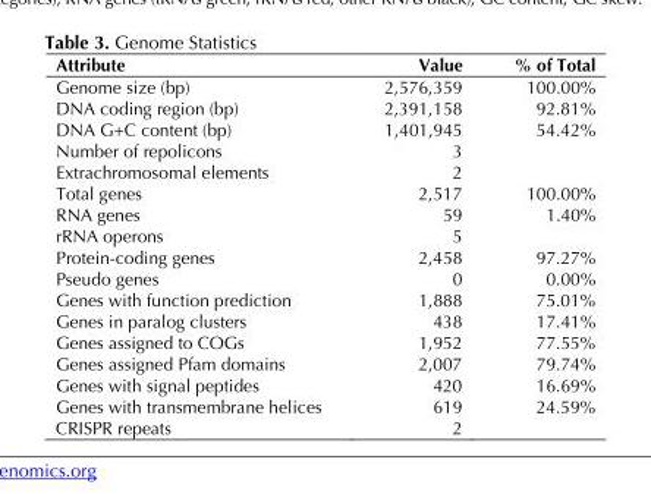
<table><thead><tr><td>Attribute</td><td>Value</td><td>% of Total</td></tr></thead><tbody><tr><td>Genome size (bp)</td><td>2,576,359</td><td>100.00%</td></tr><tr><td>DNA coding region (bp)</td><td>2,391,158</td><td>92.81%</td></tr><tr><td>DNA G+C content (bp)</td><td>1,401,945</td><td>54.42%</td></tr><tr><td>Number of repolicons</td><td>3</td><td></td></tr><tr><td>Extrachromosomal elements</td><td>2</td><td></td></tr><tr><td>Total genes</td><td>2,517</td><td>100.00%</td></tr><tr><td>RNA genes</td><td>59</td><td>1.40%</td></tr><tr><td>rRNA operons</td><td>5</td><td></td></tr><tr><td>Protein-coding genes</td><td>2,458</td><td>97.27%</td></tr><tr><td>Pseudo genes</td><td>0</td><td>0.00%</td></tr><tr><td>Genes with function prediction</td><td>1,888</td><td>75.01%</td></tr><tr><td>Genes in paralog clusters</td><td>438</td><td>17.41%</td></tr><tr><td>Genes assigned to COGs</td><td>1,952</td><td>77.55%</td></tr><tr><td>Genes assigned Pfam domains</td><td>2,007</td><td>79.74%</td></tr><tr><td>Genes with signal peptides</td><td>420</td><td>16.69%</td></tr><tr><td>Genes with transmembrane helices</td><td>619</td><td>24.59%</td></tr><tr><td>CRISPR repeats</td><td>2</td><td></td></tr></tbody></table>